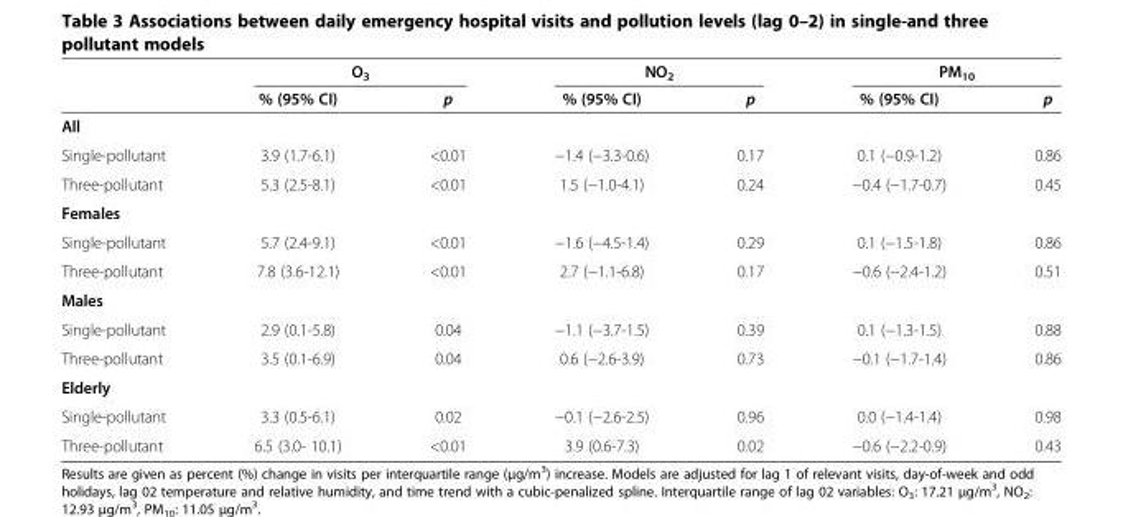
<table><thead><tr><td rowspan="2"></td><td colspan="2">O<sub>3</sub></td><td colspan="2">NO<sub>2</sub></td><td colspan="2">PM<sub>10</sub></td></tr><tr><td>% (95% CI)</td><td>p</td><td>% (95% CI)</td><td>p</td><td>% (95% CI)</td><td>p</td></tr></thead><tbody><tr><td colspan="7">All</td></tr><tr><td>Single-pollutant</td><td>3.9 (1.7-6.1)</td><td>&lt;0.01</td><td>−1.4 (−3.3-0.6)</td><td>0.17</td><td>0.1 (−0.9-1.2)</td><td>0.86</td></tr><tr><td>Three-pollutant</td><td>5.3 (2.5-8.1)</td><td>&lt;0.01</td><td>1.5 (−1.0-4.1)</td><td>0.24</td><td>−0.4 (−1.7-0.7)</td><td>0.45</td></tr><tr><td colspan="7">Females</td></tr><tr><td>Single-pollutant</td><td>5.7 (2.4-9.1)</td><td>&lt;0.01</td><td>−1.6 (−4.5-1.4)</td><td>0.29</td><td>0.1 (−1.5-1.8)</td><td>0.86</td></tr><tr><td>Three-pollutant</td><td>7.8 (3.6-12.1)</td><td>&lt;0.01</td><td>2.7 (−1.1-6.8)</td><td>0.17</td><td>−0.6 (−2.4-1.2)</td><td>0.51</td></tr><tr><td colspan="7">Males</td></tr><tr><td>Single-pollutant</td><td>2.9 (0.1-5.8)</td><td>0.04</td><td>−1.1 (−3.7-1.5)</td><td>0.39</td><td>0.1 (−1.3-1.5)</td><td>0.88</td></tr><tr><td>Three-pollutant</td><td>3.5 (0.1-6.9)</td><td>0.04</td><td>0.6 (−2.6-3.9)</td><td>0.73</td><td>−0.1 (−1.7-1.4)</td><td>0.86</td></tr><tr><td colspan="7">Elderly</td></tr><tr><td>Single-pollutant</td><td>3.3 (0.5-6.1)</td><td>0.02</td><td>−0.1 (−2.6-2.5)</td><td>0.96</td><td>0.0 (−1.4-1.4)</td><td>0.98</td></tr><tr><td>Three-pollutant</td><td>6.5 (3.0- 10.1)</td><td>&lt;0.01</td><td>3.9 (0.6-7.3)</td><td>0.02</td><td>−0.6 (−2.2-0.9)</td><td>0.43</td></tr></tbody></table>